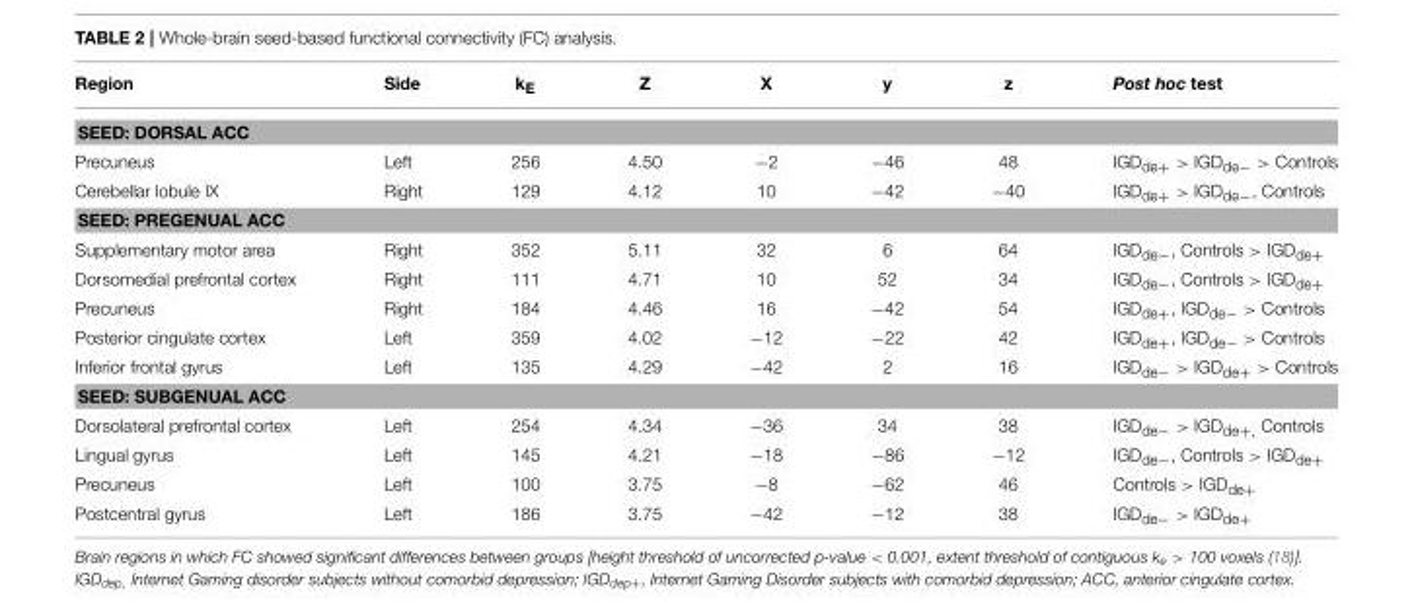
<table><thead><tr><td>Region</td><td>Side</td><td>k<sub>E</sub></td><td>Z</td><td>X</td><td>y</td><td>z</td><td>Post hoc test</td></tr></thead><tbody><tr><td colspan="8">SEED: DORSAL ACC</td></tr><tr><td>Precuneus</td><td>Left</td><td>256</td><td>4.50</td><td>−2</td><td>−46</td><td>48</td><td>IGD<sub>de+</sub> &gt; IGD<sub>de−</sub> &gt; Controls</td></tr><tr><td>Cerebellar lobule IX</td><td>Right</td><td>129</td><td>4.12</td><td>10</td><td>−42</td><td>−40</td><td>IGD<sub>de+</sub> &gt; IGD<sub>de−</sub>, Controls</td></tr><tr><td colspan="8">SEED: PREGENUAL ACC</td></tr><tr><td>Supplementary motor area</td><td>Right</td><td>352</td><td>5.11</td><td>32</td><td>6</td><td>64</td><td>IGD<sub>de−</sub>, Controls &gt; IGD<sub>de+</sub></td></tr><tr><td>Dorsomedial prefrontal cortex</td><td>Right</td><td>111</td><td>4.71</td><td>10</td><td>52</td><td>34</td><td>IGD<sub>de−</sub>, Controls &gt; IGD<sub>de+</sub></td></tr><tr><td>Precuneus</td><td>Right</td><td>184</td><td>4.46</td><td>16</td><td>−42</td><td>54</td><td>IGD<sub>de+</sub>, IGD<sub>de−</sub> &gt; Controls</td></tr><tr><td>Posterior cingulate cortex</td><td>Left</td><td>359</td><td>4.02</td><td>−12</td><td>−22</td><td>42</td><td>IGD<sub>de+</sub>, IGD<sub>de−</sub> &gt; Controls</td></tr><tr><td>Inferior frontal gyrus</td><td>Left</td><td>135</td><td>4.29</td><td>−42</td><td>2</td><td>16</td><td>IGD<sub>de−</sub> &gt; IGD<sub>de+</sub> &gt; Controls</td></tr><tr><td colspan="8">SEED: SUBGENUAL ACC</td></tr><tr><td>Dorsolateral prefrontal cortex</td><td>Left</td><td>254</td><td>4.34</td><td>−36</td><td>34</td><td>38</td><td>IGD<sub>de−</sub> &gt; IGD<sub>de+</sub>, Controls</td></tr><tr><td>Lingual gyrus</td><td>Left</td><td>145</td><td>4.21</td><td>−18</td><td>−86</td><td>−12</td><td>IGD<sub>de−</sub>, Controls &gt; IGD<sub>de+</sub></td></tr><tr><td>Precuneus</td><td>Left</td><td>100</td><td>3.75</td><td>−8</td><td>−62</td><td>46</td><td>Controls &gt; IGD<sub>de+</sub></td></tr><tr><td>Postcentral gyrus</td><td>Left</td><td>186</td><td>3.75</td><td>−42</td><td>−12</td><td>38</td><td>IGD<sub>de−</sub> &gt; IGD<sub>de+</sub></td></tr></tbody></table>